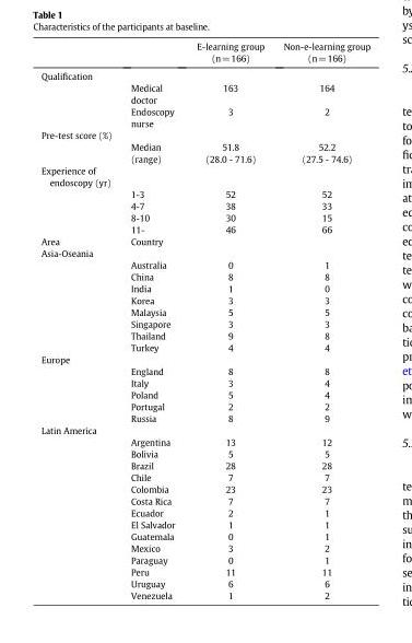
<table><thead><tr><td></td><td></td><td>E-learning group (n=166)</td><td>Non-e-learning group (n=166)</td></tr></thead><tbody><tr><td colspan="4">Qualification</td></tr><tr><td></td><td>Medical doctor</td><td>163</td><td>164</td></tr><tr><td></td><td>Endoscopy nurse</td><td>3</td><td>2</td></tr><tr><td colspan="4">Pre-test score (%)</td></tr><tr><td></td><td>Median</td><td>51.8</td><td>52.2</td></tr><tr><td></td><td>(range)</td><td>(28.0 - 71.6)</td><td>(27.5 - 74.6)</td></tr><tr><td colspan="4">Experience of endoscopy (yr)</td></tr><tr><td></td><td>1-3</td><td>52</td><td>52</td></tr><tr><td></td><td>4-7</td><td>38</td><td>33</td></tr><tr><td></td><td>8-10</td><td>30</td><td>15</td></tr><tr><td></td><td>11-</td><td>46</td><td>66</td></tr><tr><td>Area</td><td>Country</td><td></td><td></td></tr><tr><td colspan="4">Asia-Oseania</td></tr><tr><td></td><td>Australia</td><td>0</td><td>1</td></tr><tr><td></td><td>China</td><td>8</td><td>8</td></tr><tr><td></td><td>India</td><td>1</td><td>0</td></tr><tr><td></td><td>Korea</td><td>3</td><td>3</td></tr><tr><td></td><td>Malaysia</td><td>5</td><td>5</td></tr><tr><td></td><td>Singapore</td><td>3</td><td>3</td></tr><tr><td></td><td>Thailand</td><td>9</td><td>8</td></tr><tr><td></td><td>Turkey</td><td>4</td><td>4</td></tr><tr><td colspan="4">Europe</td></tr><tr><td></td><td>England</td><td>8</td><td>8</td></tr><tr><td></td><td>Italy</td><td>3</td><td>4</td></tr><tr><td></td><td>Poland</td><td>5</td><td>4</td></tr><tr><td></td><td>Portugal</td><td>2</td><td>2</td></tr><tr><td></td><td>Russia</td><td>8</td><td>9</td></tr><tr><td colspan="4">Latin America</td></tr><tr><td></td><td>Argentina</td><td>13</td><td>12</td></tr><tr><td></td><td>Bolivia</td><td>5</td><td>5</td></tr><tr><td></td><td>Brazil</td><td>28</td><td>28</td></tr><tr><td></td><td>Chile</td><td>7</td><td>7</td></tr><tr><td></td><td>Colombia</td><td>23</td><td>23</td></tr><tr><td></td><td>Costa Rica</td><td>7</td><td>7</td></tr><tr><td></td><td>Ecuador</td><td>2</td><td>1</td></tr><tr><td></td><td>El Salvador</td><td>1</td><td>1</td></tr><tr><td></td><td>Guatemala</td><td>0</td><td>1</td></tr><tr><td></td><td>Mexico</td><td>3</td><td>2</td></tr><tr><td></td><td>Paraguay</td><td>0</td><td>1</td></tr><tr><td></td><td>Peru</td><td>11</td><td>11</td></tr><tr><td></td><td>Uruguay</td><td>6</td><td>6</td></tr><tr><td></td><td>Venezuela</td><td>1</td><td>2</td></tr></tbody></table>